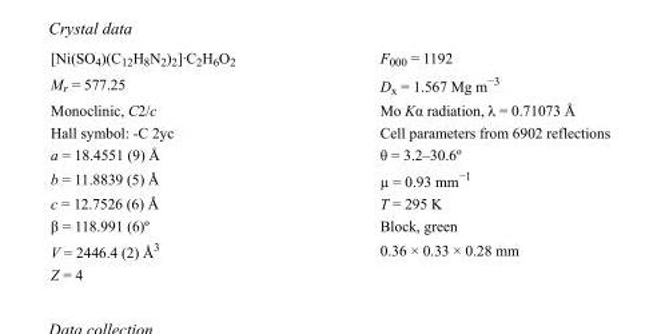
<table><tbody><tr><td>[Ni(SO<sub>4</sub>)(C<sub>12</sub>H<sub>8</sub>N<sub>2</sub>)<sub>2</sub>]·C<sub>2</sub>H<sub>6</sub>O<sub>2</sub></td><td>F000 = 1192</td></tr><tr><td>M<sub>r</sub> = 577.25</td><td>D<sub>x</sub> = 1.567 Mg m<sup>−3</sup></td></tr><tr><td>Monoclinic, C2/c</td><td>Mo Kα radiation, λ = 0.71073 Å</td></tr><tr><td>Hall symbol: -C 2yc</td><td>Cell parameters from 6902 reflections</td></tr><tr><td>a = 18.4551 (9) Å</td><td>θ = 3.2–30.6º</td></tr><tr><td>b = 11.8839 (5) Å</td><td>µ = 0.93 mm<sup>−1</sup></td></tr><tr><td>c = 12.7526 (6) Å</td><td>T = 295 K</td></tr><tr><td>β = 118.991 (6)º</td><td>Block, green</td></tr><tr><td>V = 2446.4 (2) Å<sup>3</sup></td><td>0.36 × 0.33 × 0.28 mm</td></tr><tr><td>Z = 4</td><td></td></tr></tbody></table>